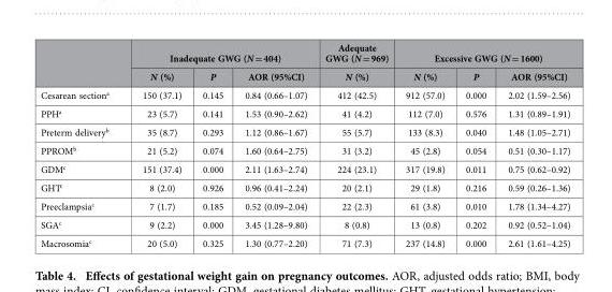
<table><thead><tr><td rowspan="2"></td><td colspan="3">Inadequate GWG (N = 404)</td><td rowspan="2">Adequate GWG (N = 969) N (%)</td><td colspan="3">Excessive GWG (N = 1600)</td></tr><tr><td>N (%)</td><td>P</td><td>AOR (95%CI)</td><td>N (%)</td><td>P</td><td>AOR (95%CI)</td></tr></thead><tbody><tr><td>Cesarean section<sup>a</sup></td><td>150 (37.1)</td><td>0.145</td><td>0.84 (0.66–1.07)</td><td>412 (42.5)</td><td>912 (57.0)</td><td>0.000</td><td>2.02 (1.59–2.56)</td></tr><tr><td>PPH<sup>a</sup></td><td>23 (5.7)</td><td>0.141</td><td>1.53 (0.90–2.62)</td><td>41 (4.2)</td><td>112 (7.0)</td><td>0.576</td><td>1.31 (0.89–1.91)</td></tr><tr><td>Preterm delivery<sup>b</sup></td><td>35 (8.7)</td><td>0.293</td><td>1.12 (0.86–1.67)</td><td>55 (5.7)</td><td>133 (8.3)</td><td>0.040</td><td>1.48 (1.05–2.71)</td></tr><tr><td>PPROM<sup>b</sup></td><td>21 (5.2)</td><td>0.074</td><td>1.60 (0.64–2.75)</td><td>31 (3.2)</td><td>45 (2.8)</td><td>0.054</td><td>0.51 (0.30–1.17)</td></tr><tr><td>GDM<sup>c</sup></td><td>151 (37.4)</td><td>0.000</td><td>2.11 (1.63–2.74)</td><td>224 (23.1)</td><td>317 (19.8)</td><td>0.011</td><td>0.75 (0.62–0.92)</td></tr><tr><td>GHT<sup>c</sup></td><td>8 (2.0)</td><td>0.926</td><td>0.96 (0.41–2.24)</td><td>20 (2.1)</td><td>29 (1.8)</td><td>0.216</td><td>0.59 (0.26–1.36)</td></tr><tr><td>Preeclampsia<sup>c</sup></td><td>7 (1.7)</td><td>0.185</td><td>0.52 (0.09–2.04)</td><td>22 (2.3)</td><td>61 (3.8)</td><td>0.010</td><td>1.78 (1.34–4.27)</td></tr><tr><td>SGA<sup>c</sup></td><td>9 (2.2)</td><td>0.000</td><td>3.45 (1.28–9.80)</td><td>8 (0.8)</td><td>13 (0.8)</td><td>0.202</td><td>0.92 (0.52–1.04)</td></tr><tr><td>Macrosomia<sup>c</sup></td><td>20 (5.0)</td><td>0.325</td><td>1.30 (0.77–2.20)</td><td>71 (7.3)</td><td>237 (14.8)</td><td>0.000</td><td>2.61 (1.61–4.25)</td></tr></tbody></table>